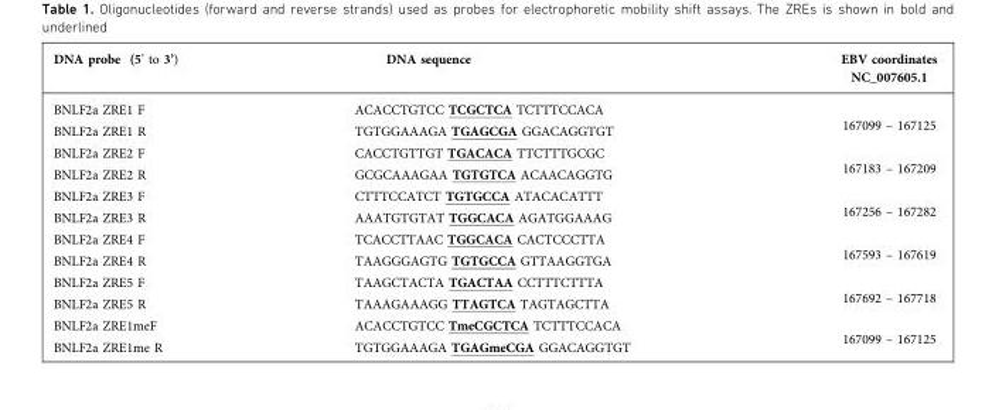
<table><thead><tr><td>DNA probe (5’ to 3’)</td><td>DNA sequence</td><td>EBV coordinates NC_007605.1</td></tr></thead><tbody><tr><td>BNLF2a ZRE1 F</td><td>ACACCTGTCC TCGCTCA TCTTTCCACA</td><td rowspan="2">167099 – 167125</td></tr><tr><td>BNLF2a ZRE1 R</td><td>TGTGGAAAGA TGAGCGA GGACAGGTGT</td></tr><tr><td>BNLF2a ZRE2 F</td><td>CACCTGTTGT TGACACA TTCTTTGCGC</td><td rowspan="2">167183 – 167209</td></tr><tr><td>BNLF2a ZRE2 R</td><td>GCGCAAAGAA TGTGTCA ACAACAGGTG</td></tr><tr><td>BNLF2a ZRE3 F</td><td>CTTTCCATCT TGTGCCA ATACACATTT</td><td rowspan="2">167256 – 167282</td></tr><tr><td>BNLF2a ZRE3 R</td><td>AAATGTGTAT TGGCACA AGATGGAAAG</td></tr><tr><td>BNLF2a ZRE4 F</td><td>TCACCTTAAC TGGCACA CACTCCCTTA</td><td rowspan="2">167593 – 167619</td></tr><tr><td>BNLF2a ZRE4 R</td><td>TAAGGGAGTG TGTGCCA GTTAAGGTGA</td></tr><tr><td>BNLF2a ZRE5 F</td><td>TAAGCTACTA TGACTAA CCTTTCTTTA</td><td rowspan="2">167692 – 167718</td></tr><tr><td>BNLF2a ZRE5 R</td><td>TAAAGAAAGG TTAGTCA TAGTAGCTTA</td></tr><tr><td>BNLF2a ZRE1meF</td><td>ACACCTGTCC TmeCGCTCA TCTTTCCACA</td><td rowspan="2">167099 – 167125</td></tr><tr><td>BNLF2a ZRE1me R</td><td>TGTGGAAAGA TGAGmeCGA GGACAGGTGT</td></tr></tbody></table>